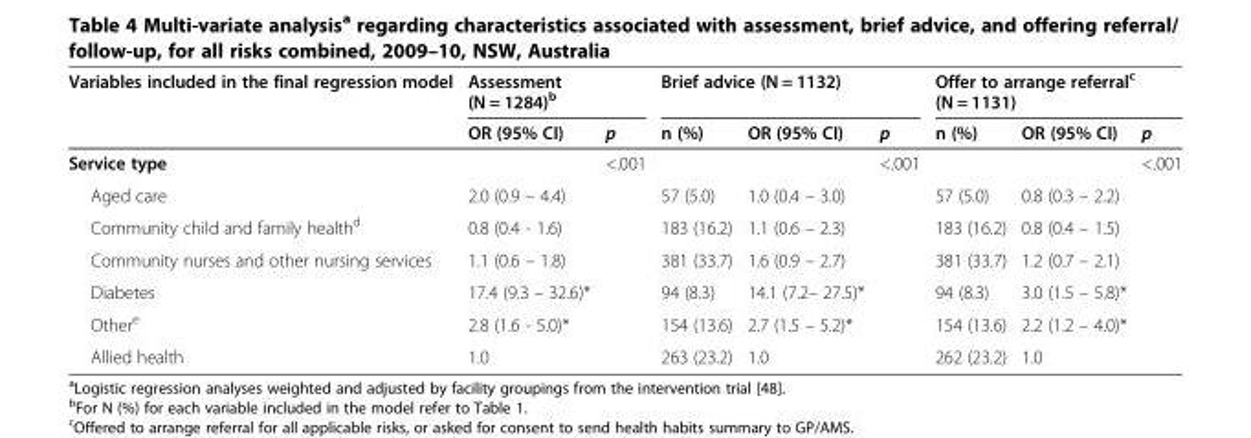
<table><thead><tr><td rowspan="2">Variables included in the final regression model</td><td colspan="2">Assessment (N = 1284)<sup>b</sup></td><td colspan="3">Brief advice (N = 1132)</td><td colspan="3">Offer to arrange referral<sup>c</sup> (N = 1131)</td></tr><tr><td>OR (95% CI)</td><td>p</td><td>n (%)</td><td>OR (95% CI)</td><td>p</td><td>n (%)</td><td>OR (95% CI)</td><td>p</td></tr></thead><tbody><tr><td>Service type</td><td></td><td>&lt;.001</td><td></td><td></td><td>&lt;.001</td><td></td><td></td><td>&lt;.001</td></tr><tr><td>Aged care</td><td>2.0 (0.9 – 4.4)</td><td></td><td>57 (5.0)</td><td>1.0 (0.4 – 3.0)</td><td></td><td>57 (5.0)</td><td>0.8 (0.3 – 2.2)</td><td></td></tr><tr><td>Community child and family health<sup>d</sup></td><td>0.8 (0.4 - 1.6)</td><td></td><td>183 (16.2)</td><td>1.1 (0.6 – 2.3)</td><td></td><td>183 (16.2)</td><td>0.8 (0.4 – 1.5)</td><td></td></tr><tr><td>Community nurses and other nursing services</td><td>1.1 (0.6 – 1.8)</td><td></td><td>381 (33.7)</td><td>1.6 (0.9 – 2.7)</td><td></td><td>381 (33.7)</td><td>1.2 (0.7 – 2.1)</td><td></td></tr><tr><td>Diabetes</td><td>17.4 (9.3 – 32.6)*</td><td></td><td>94 (8.3)</td><td>14.1 (7.2– 27.5)*</td><td></td><td>94 (8.3)</td><td>3.0 (1.5 – 5.8)*</td><td></td></tr><tr><td>Other<sup>e</sup></td><td>2.8 (1.6 - 5.0)*</td><td></td><td>154 (13.6)</td><td>2.7 (1.5 – 5.2)*</td><td></td><td>154 (13.6)</td><td>2.2 (1.2 – 4.0)*</td><td></td></tr><tr><td>Allied health</td><td>1.0</td><td></td><td>263 (23.2)</td><td>1.0</td><td></td><td>262 (23.2)</td><td>1.0</td><td></td></tr></tbody></table>